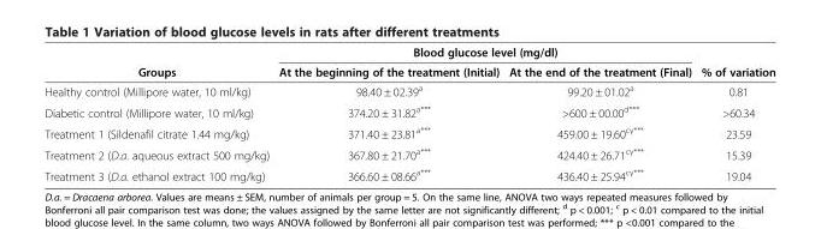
<table><thead><tr><td rowspan="2">Groups</td><td colspan="2">Blood glucose level (mg/dl)</td><td rowspan="2">% of variation</td></tr><tr><td>At the beginning of the treatment (Initial)</td><td>At the end of the treatment (Final)</td></tr></thead><tbody><tr><td>Healthy control (Millipore water, 10 ml/kg)</td><td>98.40 ± 02.39<sup>a</sup></td><td>99.20 ± 01.02<sup>a</sup></td><td>0.81</td></tr><tr><td>Diabetic control (Millipore water, 10 ml/kg)</td><td>374.20 ± 31.82<sup>a***</sup></td><td>&gt;600 ± 00.00<sup>d***</sup></td><td>&gt;60.34</td></tr><tr><td>Treatment 1 (Sildenafil citrate 1.44 mg/kg)</td><td>371.40 ± 23.81<sup>a***</sup></td><td>459.00 ± 19.60<sup>cγ***</sup></td><td>23.59</td></tr><tr><td>Treatment 2 (D.a. aqueous extract 500 mg/kg)</td><td>367.80 ± 21.70<sup>a***</sup></td><td>424.40 ± 26.71<sup>cγ***</sup></td><td>15.39</td></tr><tr><td>Treatment 3 (D.a. ethanol extract 100 mg/kg)</td><td>366.60 ± 08.66<sup>a***</sup></td><td>436.40 ± 25.94<sup>cγ***</sup></td><td>19.04</td></tr></tbody></table>